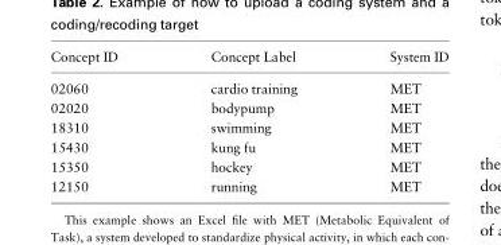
<table><thead><tr><td>Concept ID</td><td>Concept Label</td><td>System ID</td></tr></thead><tbody><tr><td>02060</td><td>cardio training</td><td>MET</td></tr><tr><td>02020</td><td>bodypump</td><td>MET</td></tr><tr><td>18310</td><td>swimming</td><td>MET</td></tr><tr><td>15430</td><td>kung fu</td><td>MET</td></tr><tr><td>15350</td><td>hockey</td><td>MET</td></tr><tr><td>12150</td><td>running</td><td>MET</td></tr></tbody></table>